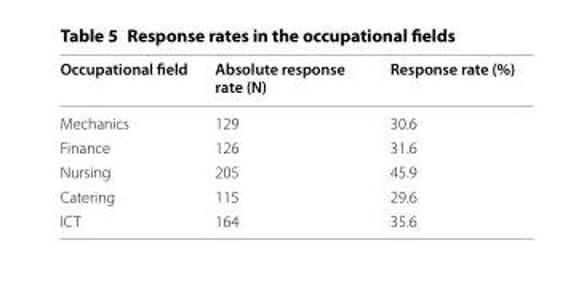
<table><thead><tr><td>Occupational field</td><td>Absolute response rate (N)</td><td>Response rate (%)</td></tr></thead><tbody><tr><td>Mechanics</td><td>129</td><td>30.6</td></tr><tr><td>Finance</td><td>126</td><td>31.6</td></tr><tr><td>Nursing</td><td>205</td><td>45.9</td></tr><tr><td>Catering</td><td>115</td><td>29.6</td></tr><tr><td>ICT</td><td>164</td><td>35.6</td></tr></tbody></table>